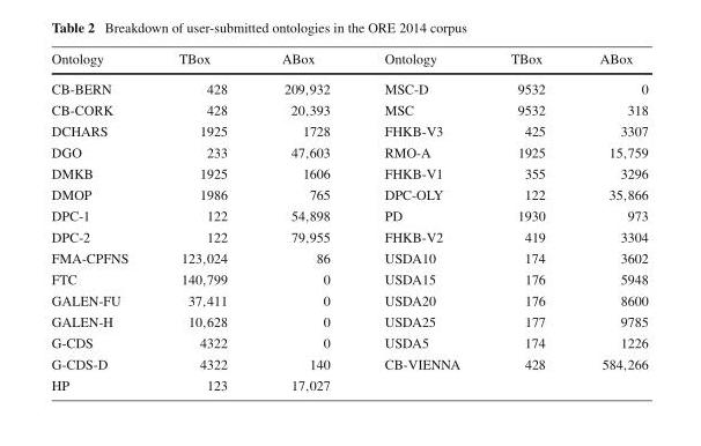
<table><thead><tr><td>Ontology</td><td>TBox</td><td>ABox</td><td>Ontology</td><td>TBox</td><td>ABox</td></tr></thead><tbody><tr><td>CB-BERN</td><td>428</td><td>209,932</td><td>MSC-D</td><td>9532</td><td>0</td></tr><tr><td>CB-CORK</td><td>428</td><td>20,393</td><td>MSC</td><td>9532</td><td>318</td></tr><tr><td>DCHARS</td><td>1925</td><td>1728</td><td>FHKB-V3</td><td>425</td><td>3307</td></tr><tr><td>DGO</td><td>233</td><td>47,603</td><td>RMO-A</td><td>1925</td><td>15,759</td></tr><tr><td>DMKB</td><td>1925</td><td>1606</td><td>FHKB-V1</td><td>355</td><td>3296</td></tr><tr><td>DMOP</td><td>1986</td><td>765</td><td>DPC-OLY</td><td>122</td><td>35,866</td></tr><tr><td>DPC-1</td><td>122</td><td>54,898</td><td>PD</td><td>1930</td><td>973</td></tr><tr><td>DPC-2</td><td>122</td><td>79,955</td><td>FHKB-V2</td><td>419</td><td>3304</td></tr><tr><td>FMA-CPFNS</td><td>123,024</td><td>86</td><td>USDA10</td><td>174</td><td>3602</td></tr><tr><td>FTC</td><td>140,799</td><td>0</td><td>USDA15</td><td>176</td><td>5948</td></tr><tr><td>GALEN-FU</td><td>37,411</td><td>0</td><td>USDA20</td><td>176</td><td>8600</td></tr><tr><td>GALEN-H</td><td>10,628</td><td>0</td><td>USDA25</td><td>177</td><td>9785</td></tr><tr><td>G-CDS</td><td>4322</td><td>0</td><td>USDA5</td><td>174</td><td>1226</td></tr><tr><td>G-CDS-D</td><td>4322</td><td>140</td><td>CB-VIENNA</td><td>428</td><td>584,266</td></tr><tr><td>HP</td><td>123</td><td>17,027</td><td></td><td></td><td></td></tr></tbody></table>